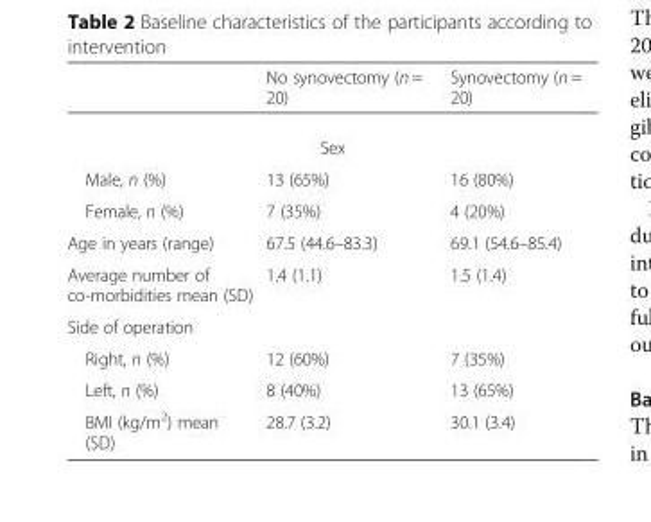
<table><thead><tr><td></td><td>No synovectomy (n = 20)</td><td>Synovectomy (n = 20)</td></tr></thead><tbody><tr><td colspan="3">Sex</td></tr><tr><td>Male, n (%)</td><td>13 (65%)</td><td>16 (80%)</td></tr><tr><td>Female, n (%)</td><td>7 (35%)</td><td>4 (20%)</td></tr><tr><td>Age in years (range)</td><td>67.5 (44.6–83.3)</td><td>69.1 (54.6–85.4)</td></tr><tr><td>Average number of co-morbidities mean (SD)</td><td>1.4 (1.1)</td><td>1.5 (1.4)</td></tr><tr><td colspan="3">Side of operation</td></tr><tr><td>Right, n (%)</td><td>12 (60%)</td><td>7 (35%)</td></tr><tr><td>Left, n (%)</td><td>8 (40%)</td><td>13 (65%)</td></tr><tr><td>BMI (kg/m<sup>2</sup>) mean (SD)</td><td>28.7 (3.2)</td><td>30.1 (3.4)</td></tr></tbody></table>